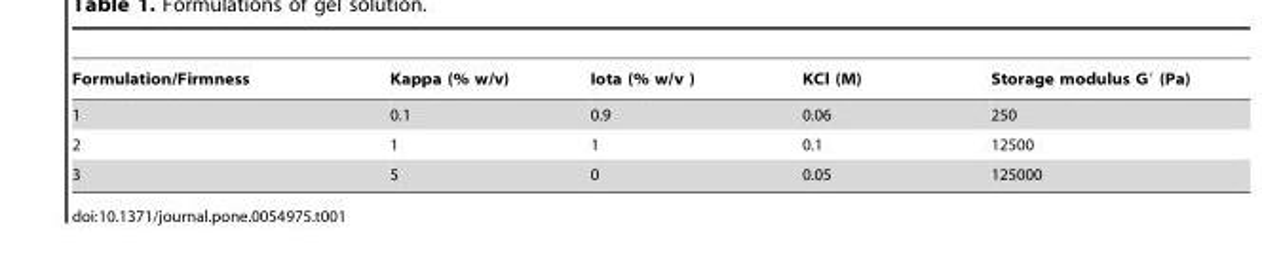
<table><thead><tr><td>Formulation/Firmness</td><td>Kappa (% w/v)</td><td>Iota (% w/v )</td><td>KCl (M)</td><td>Storage modulus G′ (Pa)</td></tr></thead><tbody><tr><td>1</td><td>0.1</td><td>0.9</td><td>0.06</td><td>250</td></tr><tr><td>2</td><td>1</td><td>1</td><td>0.1</td><td>12500</td></tr><tr><td>3</td><td>5</td><td>0</td><td>0.05</td><td>125000</td></tr></tbody></table>